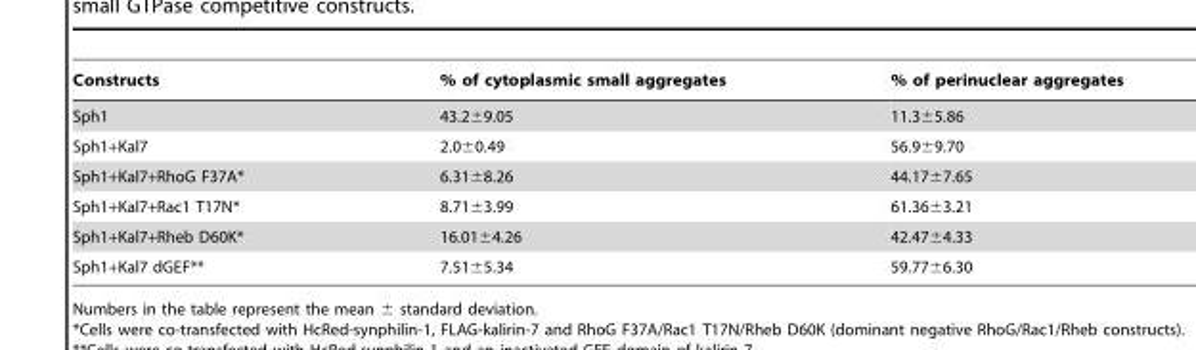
<table><thead><tr><td>Constructs</td><td>% of cytoplasmic small aggregates</td><td>% of perinuclear aggregates</td></tr></thead><tbody><tr><td>Sph1</td><td>43.2±9.05</td><td>11.3±5.86</td></tr><tr><td>Sph1+Kal7</td><td>2.0±0.49</td><td>56.9±9.70</td></tr><tr><td>Sph1+Kal7+RhoG F37A*</td><td>6.31±8.26</td><td>44.17±7.65</td></tr><tr><td>Sph1+Kal7+Rac1 T17N*</td><td>8.71±3.99</td><td>61.36±3.21</td></tr><tr><td>Sph1+Kal7+Rheb D60K*</td><td>16.01±4.26</td><td>42.47±4.33</td></tr><tr><td>Sph1+Kal7 dGEF**</td><td>7.51±5.34</td><td>59.77±6.30</td></tr></tbody></table>